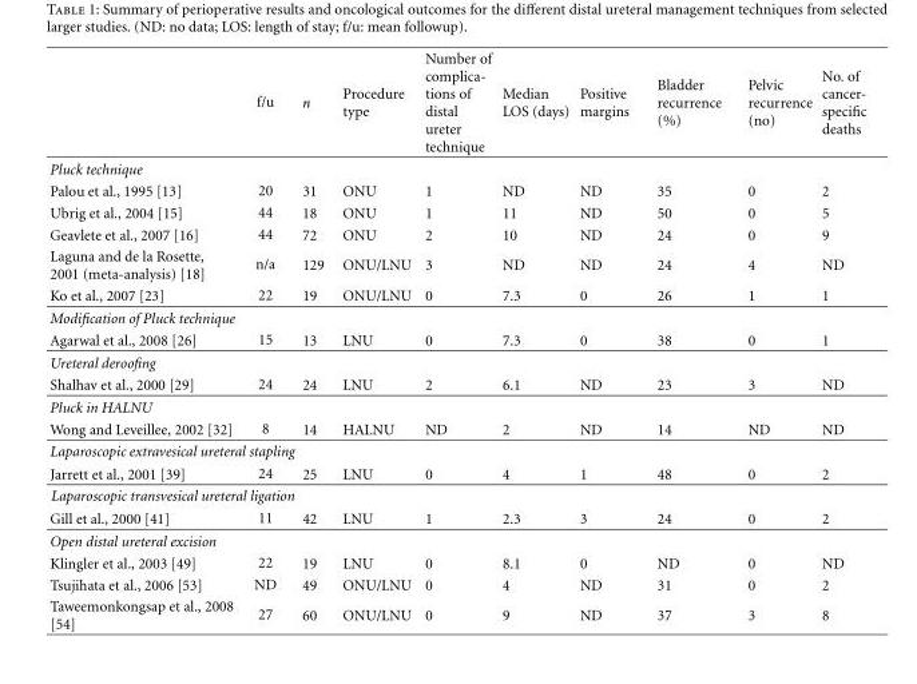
<table><thead><tr><td></td><td>f/u</td><td>n</td><td>Procedure type</td><td>Number of complica- tions of distal ureter technique</td><td>Median LOS (days)</td><td>Positive margins</td><td>Bladder recurrence (%)</td><td>Pelvic recurrence (no)</td><td>No. of cancer- specific deaths</td></tr></thead><tbody><tr><td colspan="10">Pluck technique</td></tr><tr><td>Palou et al., 1995 [13]</td><td>20</td><td>31</td><td>ONU</td><td>1</td><td>ND</td><td>ND</td><td>35</td><td>0</td><td>2</td></tr><tr><td>Ubrig et al., 2004 [15]</td><td>44</td><td>18</td><td>ONU</td><td>1</td><td>11</td><td>ND</td><td>50</td><td>0</td><td>5</td></tr><tr><td>Geavlete et al., 2007 [16]</td><td>44</td><td>72</td><td>ONU</td><td>2</td><td>10</td><td>ND</td><td>24</td><td>0</td><td>9</td></tr><tr><td>Laguna and de la Rosette, 2001 (meta-analysis) [18]</td><td>n/a</td><td>129</td><td>ONU/LNU</td><td>3</td><td>ND</td><td>ND</td><td>24</td><td>4</td><td>ND</td></tr><tr><td>Ko et al., 2007 [23]</td><td>22</td><td>19</td><td>ONU/LNU</td><td>0</td><td>7.3</td><td>0</td><td>26</td><td>1</td><td>1</td></tr><tr><td colspan="10">Modification of Pluck technique</td></tr><tr><td>Agarwal et al., 2008 [26]</td><td>15</td><td>13</td><td>LNU</td><td>0</td><td>7.3</td><td>0</td><td>38</td><td>0</td><td>1</td></tr><tr><td colspan="10">Ureteral deroofing</td></tr><tr><td>Shalhav et al., 2000 [29]</td><td>24</td><td>24</td><td>LNU</td><td>2</td><td>6.1</td><td>ND</td><td>23</td><td>3</td><td>ND</td></tr><tr><td colspan="10">Pluck in HALNU</td></tr><tr><td>Wong and Leveillee, 2002 [32]</td><td>8</td><td>14</td><td>HALNU</td><td>ND</td><td>2</td><td>ND</td><td>14</td><td>ND</td><td>ND</td></tr><tr><td colspan="10">Laparoscopic extravesical ureteral stapling</td></tr><tr><td>Jarrett et al., 2001 [39]</td><td>24</td><td>25</td><td>LNU</td><td>0</td><td>4</td><td>1</td><td>48</td><td>0</td><td>2</td></tr><tr><td colspan="10">Laparoscopic transvesical ureteral ligation</td></tr><tr><td>Gill et al., 2000 [41]</td><td>11</td><td>42</td><td>LNU</td><td>1</td><td>2.3</td><td>3</td><td>24</td><td>0</td><td>2</td></tr><tr><td colspan="10">Open distal ureteral excision</td></tr><tr><td>Klingler et al., 2003 [49]</td><td>22</td><td>19</td><td>LNU</td><td>0</td><td>8.1</td><td>0</td><td>ND</td><td>0</td><td>ND</td></tr><tr><td>Tsujihata et al., 2006 [53]</td><td>ND</td><td>49</td><td>ONU/LNU</td><td>0</td><td>4</td><td>ND</td><td>31</td><td>0</td><td>2</td></tr><tr><td>Taweemonkongsap et al., 2008 [54]</td><td>27</td><td>60</td><td>ONU/LNU</td><td>0</td><td>9</td><td>ND</td><td>37</td><td>3</td><td>8</td></tr></tbody></table>